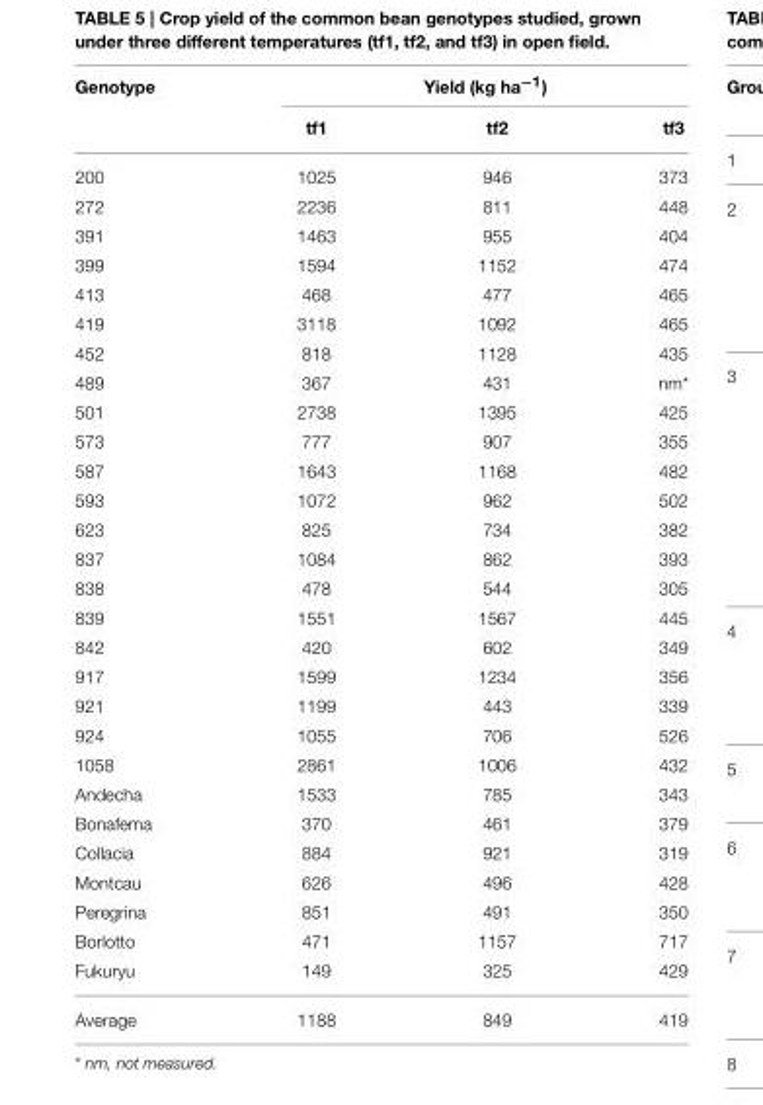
<table><thead><tr><td rowspan="2">Genotype</td><td colspan="3">Yield (kg ha<sup>−1</sup>)</td></tr><tr><td>tf1</td><td>tf2</td><td>tf3</td></tr></thead><tbody><tr><td>200</td><td>1025</td><td>946</td><td>373</td></tr><tr><td>272</td><td>2236</td><td>811</td><td>448</td></tr><tr><td>391</td><td>1463</td><td>955</td><td>404</td></tr><tr><td>399</td><td>1594</td><td>1152</td><td>474</td></tr><tr><td>413</td><td>468</td><td>477</td><td>465</td></tr><tr><td>419</td><td>3118</td><td>1092</td><td>465</td></tr><tr><td>452</td><td>818</td><td>1128</td><td>435</td></tr><tr><td>489</td><td>367</td><td>431</td><td>nm*</td></tr><tr><td>501</td><td>2738</td><td>1395</td><td>425</td></tr><tr><td>573</td><td>777</td><td>907</td><td>355</td></tr><tr><td>587</td><td>1643</td><td>1168</td><td>482</td></tr><tr><td>593</td><td>1072</td><td>962</td><td>502</td></tr><tr><td>623</td><td>825</td><td>734</td><td>382</td></tr><tr><td>837</td><td>1084</td><td>862</td><td>393</td></tr><tr><td>838</td><td>478</td><td>544</td><td>305</td></tr><tr><td>839</td><td>1551</td><td>1567</td><td>445</td></tr><tr><td>842</td><td>420</td><td>602</td><td>349</td></tr><tr><td>917</td><td>1599</td><td>1234</td><td>356</td></tr><tr><td>921</td><td>1199</td><td>443</td><td>339</td></tr><tr><td>924</td><td>1055</td><td>706</td><td>526</td></tr><tr><td>1058</td><td>2861</td><td>1006</td><td>432</td></tr><tr><td>Andecha</td><td>1533</td><td>785</td><td>343</td></tr><tr><td>Bonafema</td><td>370</td><td>461</td><td>379</td></tr><tr><td>Collacia</td><td>884</td><td>921</td><td>319</td></tr><tr><td>Montcau</td><td>626</td><td>496</td><td>428</td></tr><tr><td>Peregrina</td><td>851</td><td>491</td><td>350</td></tr><tr><td>Borlotto</td><td>471</td><td>1157</td><td>717</td></tr><tr><td>Fukuryu</td><td>149</td><td>325</td><td>429</td></tr><tr><td>Average</td><td>1188</td><td>849</td><td>419</td></tr></tbody></table>